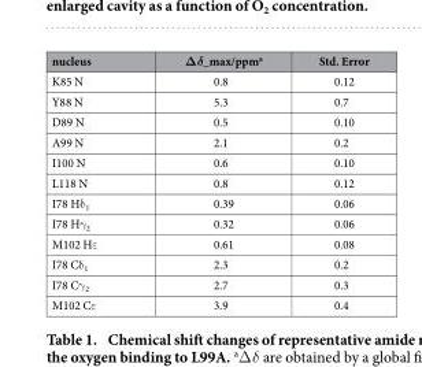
<table><thead><tr><td>nucleus</td><td>Δδ_max/ppm<sup>a</sup></td><td>Std. Error</td></tr></thead><tbody><tr><td>K85 N</td><td>0.8</td><td>0.12</td></tr><tr><td>Y88 N</td><td>5.3</td><td>0.7</td></tr><tr><td>D89 N</td><td>0.5</td><td>0.10</td></tr><tr><td>A99 N</td><td>2.1</td><td>0.2</td></tr><tr><td>I100 N</td><td>0.6</td><td>0.10</td></tr><tr><td>L118 N</td><td>0.8</td><td>0.12</td></tr><tr><td>I78 Hδ <sub>1</sub></td><td>0.39</td><td>0.06</td></tr><tr><td>I78 Hγ <sub>2</sub></td><td>0.32</td><td>0.06</td></tr><tr><td>M102 Hε</td><td>0.61</td><td>0.08</td></tr><tr><td>I78 Cδ <sub>1</sub></td><td>2.3</td><td>0.2</td></tr><tr><td>I78 Cγ <sub>2</sub></td><td>2.7</td><td>0.3</td></tr><tr><td>M102 Cε</td><td>3.9</td><td>0.4</td></tr></tbody></table>